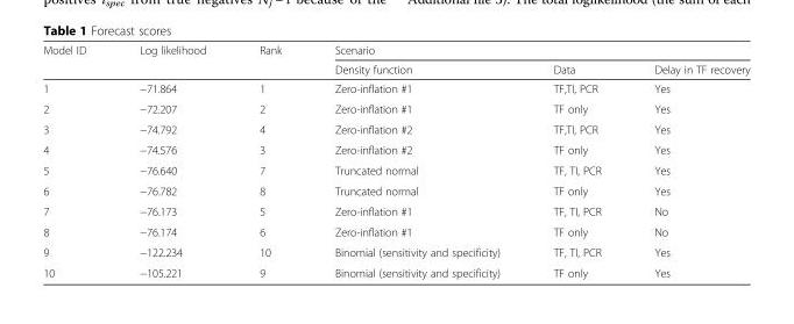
<table><thead><tr><td rowspan="2">Model ID</td><td rowspan="2">Log likelihood</td><td rowspan="2">Rank</td><td colspan="3">Scenario</td></tr><tr><td>Density function</td><td>Data</td><td>Delay in TF recovery</td></tr></thead><tbody><tr><td>1</td><td>−71.864</td><td>1</td><td>Zero-inflation #1</td><td>TF,TI, PCR</td><td>Yes</td></tr><tr><td>2</td><td>−72.207</td><td>2</td><td>Zero-inflation #1</td><td>TF only</td><td>Yes</td></tr><tr><td>3</td><td>−74.792</td><td>4</td><td>Zero-inflation #2</td><td>TF,TI, PCR</td><td>Yes</td></tr><tr><td>4</td><td>−74.576</td><td>3</td><td>Zero-inflation #2</td><td>TF only</td><td>Yes</td></tr><tr><td>5</td><td>−76.640</td><td>7</td><td>Truncated normal</td><td>TF, TI, PCR</td><td>Yes</td></tr><tr><td>6</td><td>−76.782</td><td>8</td><td>Truncated normal</td><td>TF only</td><td>Yes</td></tr><tr><td>7</td><td>−76.173</td><td>5</td><td>Zero-inflation #1</td><td>TF, TI, PCR</td><td>No</td></tr><tr><td>8</td><td>−76.174</td><td>6</td><td>Zero-inflation #1</td><td>TF only</td><td>No</td></tr><tr><td>9</td><td>−122.234</td><td>10</td><td>Binomial (sensitivity and specificity)</td><td>TF, TI, PCR</td><td>Yes</td></tr><tr><td>10</td><td>−105.221</td><td>9</td><td>Binomial (sensitivity and specificity)</td><td>TF only</td><td>Yes</td></tr></tbody></table>